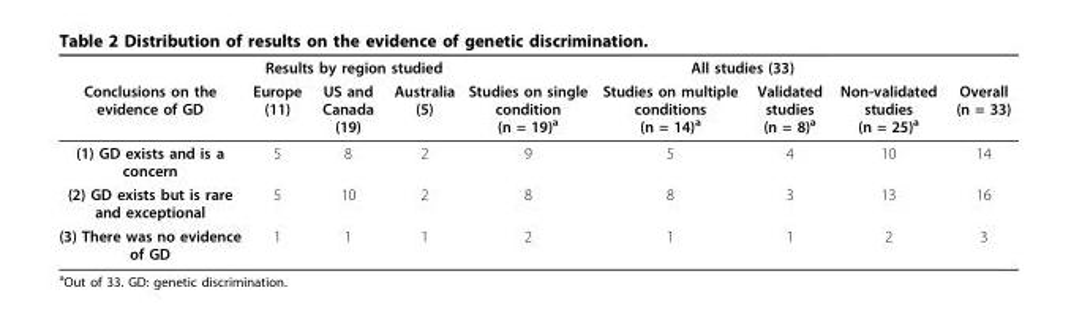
<table><thead><tr><td rowspan="2">Conclusions on the evidence of GD</td><td colspan="3">Results by region studied</td><td colspan="5">All studies (33)</td></tr><tr><td>Europe (11)</td><td>US and Canada (19)</td><td>Australia (5)</td><td>Studies on single condition (n = 19)<sup>a</sup></td><td>Studies on multiple conditions (n = 14)<sup>a</sup></td><td>Validated studies (n = 8)<sup>a</sup></td><td>Non-validated studies (n = 25)<sup>a</sup></td><td>Overall (n = 33)</td></tr></thead><tbody><tr><td>(1) GD exists and is a concern</td><td>5</td><td>8</td><td>2</td><td>9</td><td>5</td><td>4</td><td>10</td><td>14</td></tr><tr><td>(2) GD exists but is rare and exceptional</td><td>5</td><td>10</td><td>2</td><td>8</td><td>8</td><td>3</td><td>13</td><td>16</td></tr><tr><td>(3) There was no evidence of GD</td><td>1</td><td>1</td><td>1</td><td>2</td><td>1</td><td>1</td><td>2</td><td>3</td></tr></tbody></table>